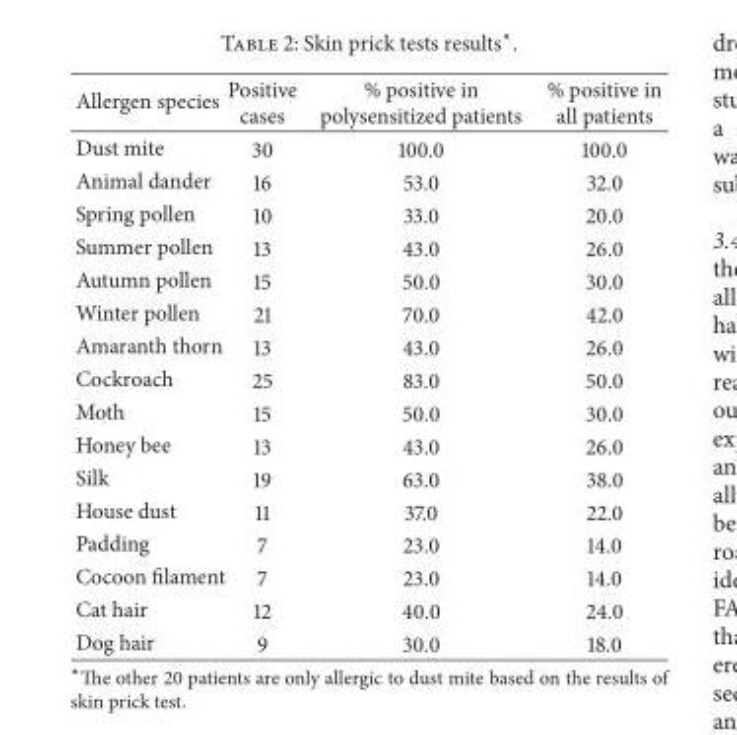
<table><thead><tr><td>Allergen species</td><td>Positive cases</td><td>% positive in polysensitized patients</td><td>% positive in all patients</td></tr></thead><tbody><tr><td>Dust mite</td><td>30</td><td>100.0</td><td>100.0</td></tr><tr><td>Animal dander</td><td>16</td><td>53.0</td><td>32.0</td></tr><tr><td>Spring pollen</td><td>10</td><td>33.0</td><td>20.0</td></tr><tr><td>Summer pollen</td><td>13</td><td>43.0</td><td>26.0</td></tr><tr><td>Autumn pollen</td><td>15</td><td>50.0</td><td>30.0</td></tr><tr><td>Winter pollen</td><td>21</td><td>70.0</td><td>42.0</td></tr><tr><td>Amaranth thorn</td><td>13</td><td>43.0</td><td>26.0</td></tr><tr><td>Cockroach</td><td>25</td><td>83.0</td><td>50.0</td></tr><tr><td>Moth</td><td>15</td><td>50.0</td><td>30.0</td></tr><tr><td>Honey bee</td><td>13</td><td>43.0</td><td>26.0</td></tr><tr><td>Silk</td><td>19</td><td>63.0</td><td>38.0</td></tr><tr><td>House dust</td><td>11</td><td>37.0</td><td>22.0</td></tr><tr><td>Padding</td><td>7</td><td>23.0</td><td>14.0</td></tr><tr><td>Cocoon filament</td><td>7</td><td>23.0</td><td>14.0</td></tr><tr><td>Cat hair</td><td>12</td><td>40.0</td><td>24.0</td></tr><tr><td>Dog hair</td><td>9</td><td>30.0</td><td>18.0</td></tr></tbody></table>